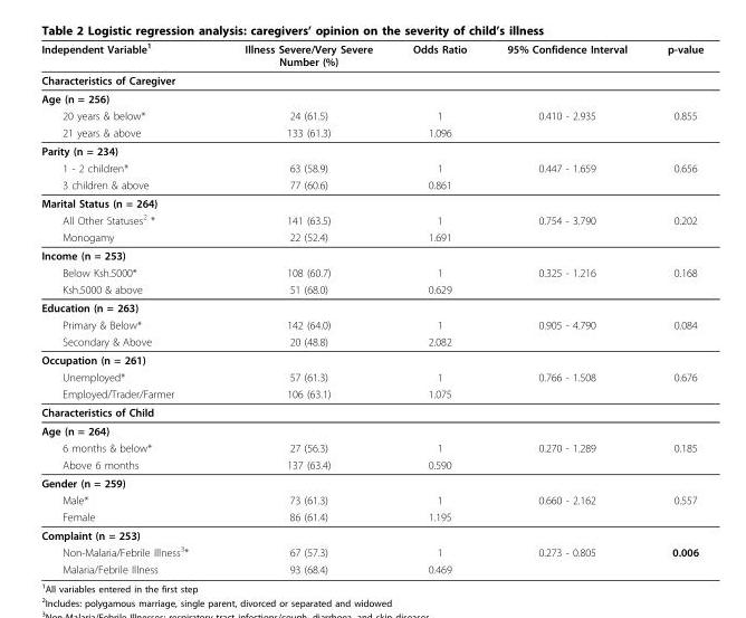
<table><thead><tr><td>Independent Variable<sup>1</sup></td><td>Illness Severe/Very Severe Number (%)</td><td>Odds Ratio</td><td>95% Confidence Interval</td><td>p-value</td></tr></thead><tbody><tr><td colspan="5">Characteristics of Caregiver</td></tr><tr><td colspan="5">Age (n = 256)</td></tr><tr><td>20 years &amp; below*</td><td>24 (61.5)</td><td>1</td><td>0.410 - 2.935</td><td>0.855</td></tr><tr><td>21 years &amp; above</td><td>133 (61.3)</td><td>1.096</td><td></td><td></td></tr><tr><td colspan="5">Parity (n = 234)</td></tr><tr><td>1 - 2 children*</td><td>63 (58.9)</td><td>1</td><td>0.447 - 1.659</td><td>0.656</td></tr><tr><td>3 children &amp; above</td><td>77 (60.6)</td><td>0.861</td><td></td><td></td></tr><tr><td colspan="5">Marital Status (n = 264)</td></tr><tr><td>All Other Statuses<sup>2</sup> *</td><td>141 (63.5)</td><td>1</td><td>0.754 - 3.790</td><td>0.202</td></tr><tr><td>Monogamy</td><td>22 (52.4)</td><td>1.691</td><td></td><td></td></tr><tr><td colspan="5">Income (n = 253)</td></tr><tr><td>Below Ksh.5000*</td><td>108 (60.7)</td><td>1</td><td>0.325 - 1.216</td><td>0.168</td></tr><tr><td>Ksh.5000 &amp; above</td><td>51 (68.0)</td><td>0.629</td><td></td><td></td></tr><tr><td colspan="5">Education (n = 263)</td></tr><tr><td>Primary &amp; Below*</td><td>142 (64.0)</td><td>1</td><td>0.905 - 4.790</td><td>0.084</td></tr><tr><td>Secondary &amp; Above</td><td>20 (48.8)</td><td>2.082</td><td></td><td></td></tr><tr><td colspan="5">Occupation (n = 261)</td></tr><tr><td>Unemployed*</td><td>57 (61.3)</td><td>1</td><td>0.766 - 1.508</td><td>0.676</td></tr><tr><td>Employed/Trader/Farmer</td><td>106 (63.1)</td><td>1.075</td><td></td><td></td></tr><tr><td colspan="5">Characteristics of Child</td></tr><tr><td colspan="5">Age (n = 264)</td></tr><tr><td>6 months &amp; below*</td><td>27 (56.3)</td><td>1</td><td>0.270 - 1.289</td><td>0.185</td></tr><tr><td>Above 6 months</td><td>137 (63.4)</td><td>0.590</td><td></td><td></td></tr><tr><td colspan="5">Gender (n = 259)</td></tr><tr><td>Male*</td><td>73 (61.3)</td><td>1</td><td>0.660 - 2.162</td><td>0.557</td></tr><tr><td>Female</td><td>86 (61.4)</td><td>1.195</td><td></td><td></td></tr><tr><td colspan="5">Complaint (n = 253)</td></tr><tr><td>Non-Malaria/Febrile Illness<sup>3</sup>*</td><td>67 (57.3)</td><td>1</td><td>0.273 - 0.805</td><td>0.006</td></tr><tr><td>Malaria/Febrile Illness</td><td>93 (68.4)</td><td>0.469</td><td></td><td></td></tr></tbody></table>